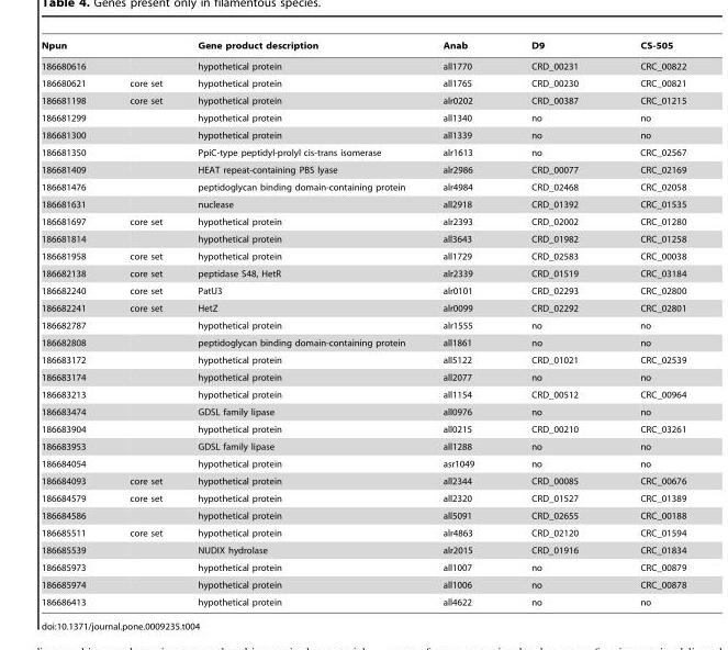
<table><thead><tr><td>Npun</td><td></td><td>Gene product description</td><td>Anab</td><td>D9</td><td>CS-505</td></tr></thead><tbody><tr><td>186680616</td><td></td><td>hypothetical protein</td><td>all1770</td><td>CRD_00231</td><td>CRC_00822</td></tr><tr><td>186680621</td><td>core set</td><td>hypothetical protein</td><td>all1765</td><td>CRD_00230</td><td>CRC_00821</td></tr><tr><td>186681198</td><td>core set</td><td>hypothetical protein</td><td>alr0202</td><td>CRD_00387</td><td>CRC_01215</td></tr><tr><td>186681299</td><td></td><td>hypothetical protein</td><td>all1340</td><td>no</td><td>no</td></tr><tr><td>186681300</td><td></td><td>hypothetical protein</td><td>all1339</td><td>no</td><td>no</td></tr><tr><td>186681350</td><td></td><td>PpiC-type peptidyl-prolyl cis-trans isomerase</td><td>alr1613</td><td>no</td><td>CRC_02567</td></tr><tr><td>186681409</td><td></td><td>HEAT repeat-containing PBS lyase</td><td>alr2986</td><td>CRD_00077</td><td>CRC_02169</td></tr><tr><td>186681476</td><td></td><td>peptidoglycan binding domain-containing protein</td><td>alr4984</td><td>CRD_02468</td><td>CRC_02058</td></tr><tr><td>186681631</td><td></td><td>nuclease</td><td>all2918</td><td>CRD_01392</td><td>CRC_01535</td></tr><tr><td>186681697</td><td>core set</td><td>hypothetical protein</td><td>alr2393</td><td>CRD_02002</td><td>CRC_01280</td></tr><tr><td>186681814</td><td></td><td>hypothetical protein</td><td>all3643</td><td>CRD_01982</td><td>CRC_01258</td></tr><tr><td>186681958</td><td>core set</td><td>hypothetical protein</td><td>all1729</td><td>CRD_02583</td><td>CRC_00038</td></tr><tr><td>186682138</td><td>core set</td><td>peptidase S48, HetR</td><td>alr2339</td><td>CRD_01519</td><td>CRC_03184</td></tr><tr><td>186682240</td><td>core set</td><td>PatU3</td><td>alr0101</td><td>CRD_02293</td><td>CRC_02800</td></tr><tr><td>186682241</td><td>core set</td><td>HetZ</td><td>alr0099</td><td>CRD_02292</td><td>CRC_02801</td></tr><tr><td>186682787</td><td></td><td>hypothetical protein</td><td>alr1555</td><td>no</td><td>no</td></tr><tr><td>186682808</td><td></td><td>peptidoglycan binding domain-containing protein</td><td>all1861</td><td>no</td><td>no</td></tr><tr><td>186683172</td><td></td><td>hypothetical protein</td><td>all5122</td><td>CRD_01021</td><td>CRC_02539</td></tr><tr><td>186683174</td><td></td><td>hypothetical protein</td><td>all2077</td><td>no</td><td>no</td></tr><tr><td>186683213</td><td></td><td>hypothetical protein</td><td>all1154</td><td>CRD_00512</td><td>CRC_00964</td></tr><tr><td>186683474</td><td></td><td>GDSL family lipase</td><td>all0976</td><td>no</td><td>no</td></tr><tr><td>186683904</td><td></td><td>hypothetical protein</td><td>all0215</td><td>CRD_00210</td><td>CRC_03261</td></tr><tr><td>186683953</td><td></td><td>GDSL family lipase</td><td>all1288</td><td>no</td><td>no</td></tr><tr><td>186684054</td><td></td><td>hypothetical protein</td><td>asr1049</td><td>no</td><td>no</td></tr><tr><td>186684093</td><td>core set</td><td>hypothetical protein</td><td>all2344</td><td>CRD_00085</td><td>CRC_00676</td></tr><tr><td>186684579</td><td>core set</td><td>hypothetical protein</td><td>all2320</td><td>CRD_01527</td><td>CRC_01389</td></tr><tr><td>186684586</td><td></td><td>hypothetical protein</td><td>all5091</td><td>CRD_02655</td><td>CRC_00188</td></tr><tr><td>186685511</td><td>core set</td><td>hypothetical protein</td><td>alr4863</td><td>CRD_02120</td><td>CRC_01594</td></tr><tr><td>186685539</td><td></td><td>NUDIX hydrolase</td><td>alr2015</td><td>CRD_01916</td><td>CRC_01834</td></tr><tr><td>186685973</td><td></td><td>hypothetical protein</td><td>all1007</td><td>no</td><td>CRC_00879</td></tr><tr><td>186685974</td><td></td><td>hypothetical protein</td><td>all1006</td><td>no</td><td>CRC_00878</td></tr><tr><td>186686413</td><td></td><td>hypothetical protein</td><td>all4622</td><td>no</td><td>no</td></tr></tbody></table>